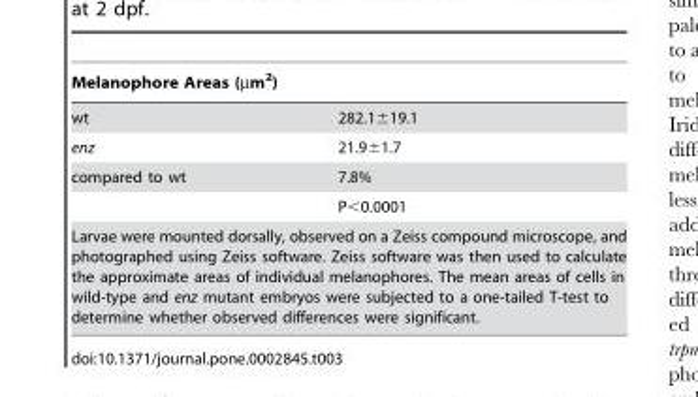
<table><thead><tr><td colspan="2">Melanophore Areas (µm<sup>2</sup>)</td></tr><tr><td>wt</td><td>282.1±19.1</td></tr></thead><tbody><tr><td>enz</td><td>21.9±1.7</td></tr><tr><td rowspan="2">compared to wt</td><td>7.8%</td></tr><tr><td>P&lt;0.0001</td></tr><tr><td colspan="2">Larvae were mounted dorsally, observed on a Zeiss compound microscope, and photographed using Zeiss software. Zeiss software was then used to calculate the approximate areas of individual melanophores. The mean areas of cells in wild-type and enz mutant embryos were subjected to a one-tailed T-test to determine whether observed differences were significant.</td></tr></tbody></table>